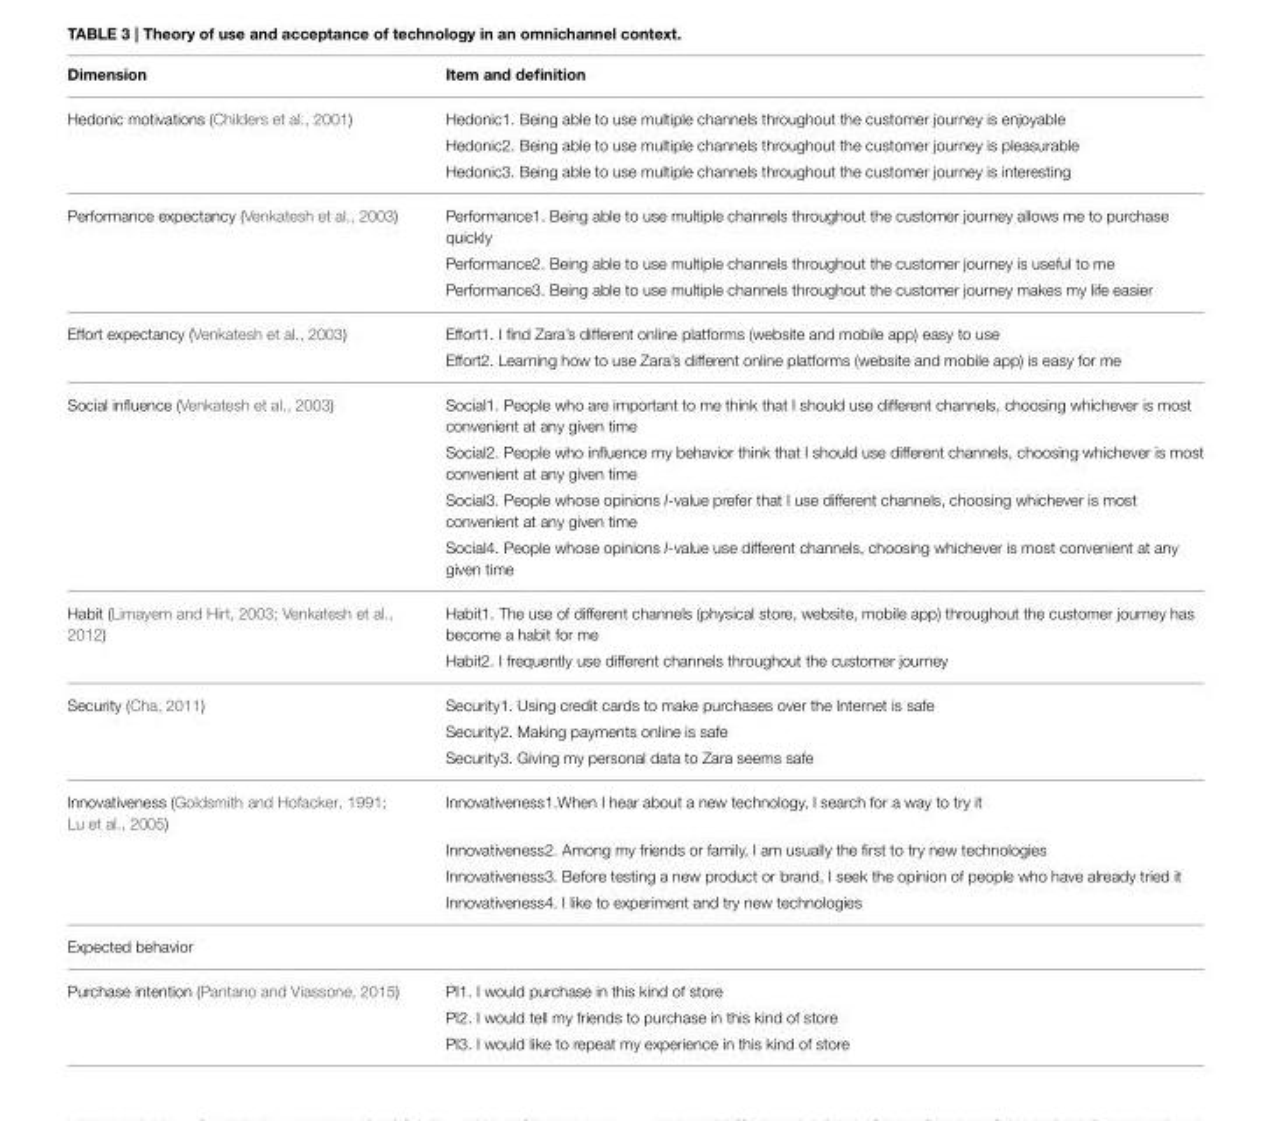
<table><thead><tr><td>Dimension</td><td>Item and definition</td></tr></thead><tbody><tr><td rowspan="3">Hedonic motivations (Childers et al., 2001)</td><td>Hedonic1. Being able to use multiple channels throughout the customer journey is enjoyable</td></tr><tr><td>Hedonic2. Being able to use multiple channels throughout the customer journey is pleasurable</td></tr><tr><td>Hedonic3. Being able to use multiple channels throughout the customer journey is interesting</td></tr><tr><td rowspan="3">Performance expectancy (Venkatesh et al., 2003)</td><td>Performance1. Being able to use multiple channels throughout the customer journey allows me to purchase quickly</td></tr><tr><td>Performance2. Being able to use multiple channels throughout the customer journey is useful to me</td></tr><tr><td>Performance3. Being able to use multiple channels throughout the customer journey makes my life easier</td></tr><tr><td rowspan="2">Effort expectancy (Venkatesh et al., 2003)</td><td>Effort1. I find Zara’s different online platforms (website and mobile app) easy to use</td></tr><tr><td>Effort2. Learning how to use Zara’s different online platforms (website and mobile app) is easy for me</td></tr><tr><td rowspan="4">Social influence (Venkatesh et al., 2003)</td><td>Social1. People who are important to me think that I should use different channels, choosing whichever is most convenient at any given time</td></tr><tr><td>Social2. People who influence my behavior think that I should use different channels, choosing whichever is most convenient at any given time</td></tr><tr><td>Social3. People whose opinions I-value prefer that I use different channels, choosing whichever is most convenient at any given time</td></tr><tr><td>Social4. People whose opinions I-value use different channels, choosing whichever is most convenient at any given time</td></tr><tr><td rowspan="2">Habit (Limayem and Hirt, 2003; Venkatesh et al., 2012)</td><td>Habit1. The use of different channels (physical store, website, mobile app) throughout the customer journey has become a habit for me</td></tr><tr><td>Habit2. I frequently use different channels throughout the customer journey</td></tr><tr><td rowspan="3">Security (Cha, 2011)</td><td>Security1. Using credit cards to make purchases over the Internet is safe</td></tr><tr><td>Security2. Making payments online is safe</td></tr><tr><td>Security3. Giving my personal data to Zara seems safe</td></tr><tr><td rowspan="4">Innovativeness (Goldsmith and Hofacker, 1991; Lu et al., 2005)</td><td>Innovativeness1.When I hear about a new technology, I search for a way to try it</td></tr><tr><td>Innovativeness2. Among my friends or family, I am usually the first to try new technologies</td></tr><tr><td>Innovativeness3. Before testing a new product or brand, I seek the opinion of people who have already tried it</td></tr><tr><td>Innovativeness4. I like to experiment and try new technologies</td></tr><tr><td colspan="2">Expected behavior</td></tr><tr><td rowspan="3">Purchase intention (Pantano and Viassone, 2015)</td><td>PI1. I would purchase in this kind of store</td></tr><tr><td>PI2. I would tell my friends to purchase in this kind of store</td></tr><tr><td>PI3. I would like to repeat my experience in this kind of store</td></tr></tbody></table>